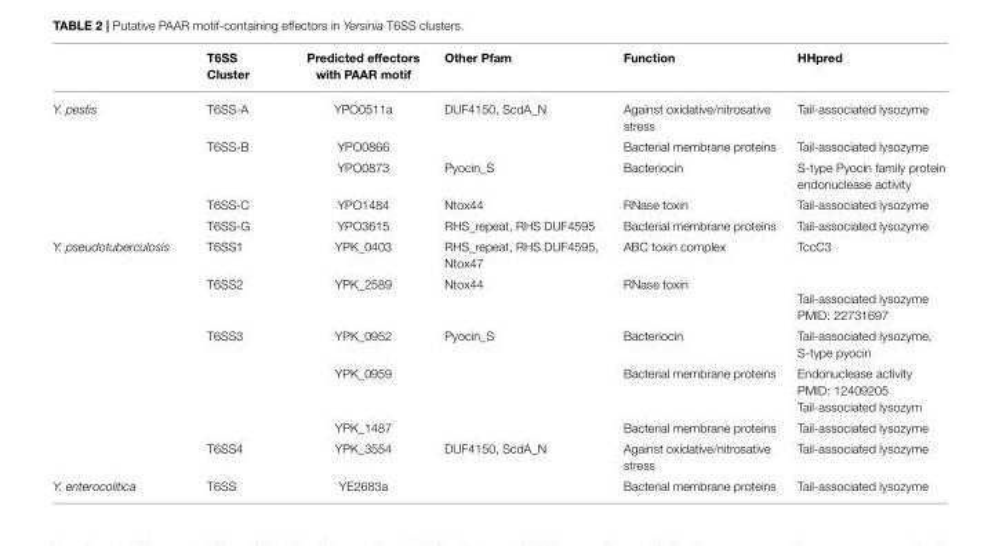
<table><thead><tr><td></td><td>T6SS Cluster</td><td>Predicted effectors with PAAR motif</td><td>Other Pfam</td><td>Function</td><td>HHpred</td></tr></thead><tbody><tr><td rowspan="5">Y. pestis</td><td>T6SS-A</td><td>YPO0511a</td><td>DUF4150, ScdA_N</td><td>Against oxidative/nitrosative stress</td><td>Tail-associated lysozyme</td></tr><tr><td>T6SS-B</td><td>YPO0866</td><td></td><td>Bacterial membrane proteins</td><td>Tail-associated lysozyme</td></tr><tr><td></td><td>YPO0873</td><td>Pyocin_S</td><td>Bacteriocin</td><td>S-type Pyocin family protein endonuclease activity</td></tr><tr><td>T6SS-C</td><td>YPO1484</td><td>Ntox44</td><td>RNase toxin</td><td>Tail-associated lysozyme</td></tr><tr><td>T6SS-G</td><td>YPO3615</td><td>RHS_repeat, RHS DUF4595</td><td>Bacterial membrane proteins</td><td>Tail-associated lysozyme</td></tr><tr><td rowspan="6">Y. pseudotuberculosis</td><td>T6SS1</td><td>YPK_0403</td><td>RHS_repeat, RHS DUF4595, Ntox47</td><td>ABC toxin complex</td><td>TccC3</td></tr><tr><td>T6SS2</td><td>YPK_2589</td><td>Ntox44</td><td>RNase toxin</td><td>Tail-associated lysozyme PMID: 22731697</td></tr><tr><td>T6SS3</td><td>YPK_0952</td><td>Pyocin_S</td><td>Bacteriocin</td><td>Tail-associated lysozyme, S-type pyocin</td></tr><tr><td></td><td>YPK_0959</td><td></td><td>Bacterial membrane proteins</td><td>Endonuclease activity PMID: 12409205 Tail-associated lysozym</td></tr><tr><td></td><td>YPK_1487</td><td></td><td>Bacterial membrane proteins</td><td>Tail-associated lysozyme</td></tr><tr><td>T6SS4</td><td>YPK_3554</td><td>DUF4150, ScdA_N</td><td>Against oxidative/nitrosative stress</td><td>Tail-associated lysozyme</td></tr><tr><td>Y. enterocolitica</td><td>T6SS</td><td>YE2683a</td><td></td><td>Bacterial membrane proteins</td><td>Tail-associated lysozyme</td></tr></tbody></table>